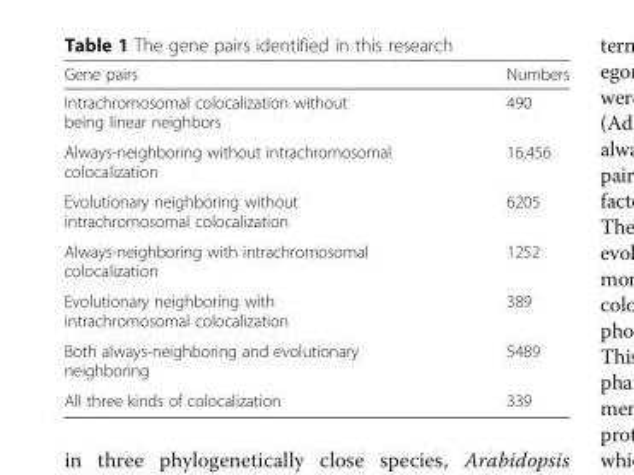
<table><thead><tr><td>Gene pairs</td><td>Numbers</td></tr></thead><tbody><tr><td>Intrachromosomal colocalization without being linear neighbors</td><td>490</td></tr><tr><td>Always-neighboring without intrachromosomal colocalization</td><td>16,456</td></tr><tr><td>Evolutionary neighboring without intrachromosomal colocalization</td><td>6205</td></tr><tr><td>Always-neighboring with intrachromosomal colocalization</td><td>1252</td></tr><tr><td>Evolutionary neighboring with intrachromosomal colocalization</td><td>389</td></tr><tr><td>Both always-neighboring and evolutionary neighboring</td><td>5489</td></tr><tr><td>All three kinds of colocalization</td><td>339</td></tr></tbody></table>